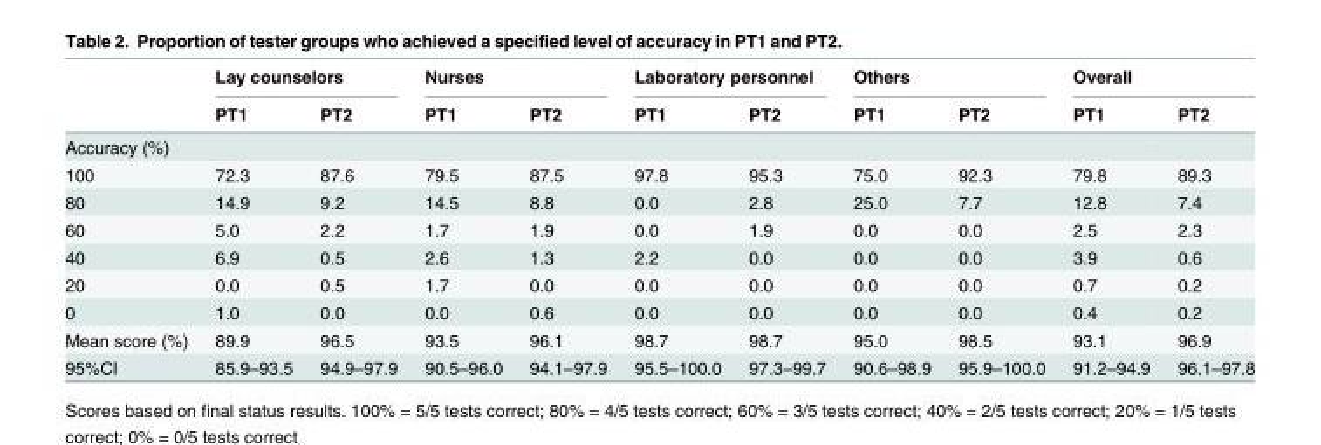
<table><thead><tr><td rowspan="2"></td><td colspan="2">Lay counselors</td><td colspan="2">Nurses</td><td colspan="2">Laboratory personnel</td><td colspan="2">Others</td><td colspan="2">Overall</td></tr><tr><td>PT1</td><td>PT2</td><td>PT1</td><td>PT2</td><td>PT1</td><td>PT2</td><td>PT1</td><td>PT2</td><td>PT1</td><td>PT2</td></tr></thead><tbody><tr><td colspan="11">Accuracy (%)</td></tr><tr><td>100</td><td>72.3</td><td>87.6</td><td>79.5</td><td>87.5</td><td>97.8</td><td>95.3</td><td>75.0</td><td>92.3</td><td>79.8</td><td>89.3</td></tr><tr><td>80</td><td>14.9</td><td>9.2</td><td>14.5</td><td>8.8</td><td>0.0</td><td>2.8</td><td>25.0</td><td>7.7</td><td>12.8</td><td>7.4</td></tr><tr><td>60</td><td>5.0</td><td>2.2</td><td>1.7</td><td>1.9</td><td>0.0</td><td>1.9</td><td>0.0</td><td>0.0</td><td>2.5</td><td>2.3</td></tr><tr><td>40</td><td>6.9</td><td>0.5</td><td>2.6</td><td>1.3</td><td>2.2</td><td>0.0</td><td>0.0</td><td>0.0</td><td>3.9</td><td>0.6</td></tr><tr><td>20</td><td>0.0</td><td>0.5</td><td>1.7</td><td>0.0</td><td>0.0</td><td>0.0</td><td>0.0</td><td>0.0</td><td>0.7</td><td>0.2</td></tr><tr><td>0</td><td>1.0</td><td>0.0</td><td>0.0</td><td>0.6</td><td>0.0</td><td>0.0</td><td>0.0</td><td>0.0</td><td>0.4</td><td>0.2</td></tr><tr><td>Mean score (%)</td><td>89.9</td><td>96.5</td><td>93.5</td><td>96.1</td><td>98.7</td><td>98.7</td><td>95.0</td><td>98.5</td><td>93.1</td><td>96.9</td></tr><tr><td>95%CI</td><td>85.9–93.5</td><td>94.9–97.9</td><td>90.5–96.0</td><td>94.1–97.9</td><td>95.5–100.0</td><td>97.3–99.7</td><td>90.6–98.9</td><td>95.9–100.0</td><td>91.2–94.9</td><td>96.1–97.8</td></tr></tbody></table>